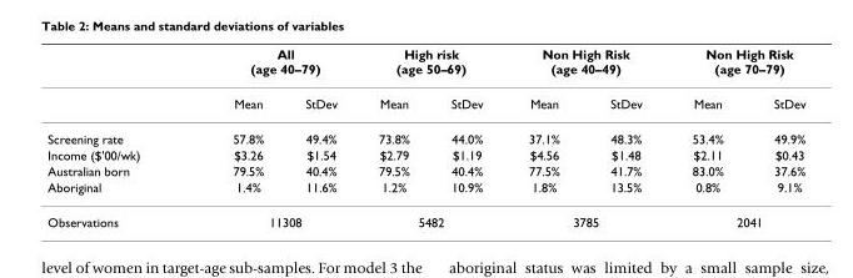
<table><thead><tr><td rowspan="2"></td><td colspan="2">All (age 40–79)</td><td colspan="2">High risk (age 50–69)</td><td colspan="2">Non High Risk (age 40–49)</td><td colspan="2">Non High Risk (age 70–79)</td></tr><tr><td>Mean</td><td>StDev</td><td>Mean</td><td>StDev</td><td>Mean</td><td>StDev</td><td>Mean</td><td>StDev</td></tr></thead><tbody><tr><td>Screening rate</td><td>57.8%</td><td>49.4%</td><td>73.8%</td><td>44.0%</td><td>37.1%</td><td>48.3%</td><td>53.4%</td><td>49.9%</td></tr><tr><td>Income ($&#x27;00/wk)</td><td>$3.26</td><td>$1.54</td><td>$2.79</td><td>$1.19</td><td>$4.56</td><td>$1.48</td><td>$2.11</td><td>$0.43</td></tr><tr><td>Australian born</td><td>79.5%</td><td>40.4%</td><td>79.5%</td><td>40.4%</td><td>77.5%</td><td>41.7%</td><td>83.0%</td><td>37.6%</td></tr><tr><td>Aboriginal</td><td>1.4%</td><td>11.6%</td><td>1.2%</td><td>10.9%</td><td>1.8%</td><td>13.5%</td><td>0.8%</td><td>9.1%</td></tr><tr><td>Observations</td><td colspan="2">11308</td><td colspan="2">5482</td><td colspan="2">3785</td><td colspan="2">2041</td></tr></tbody></table>